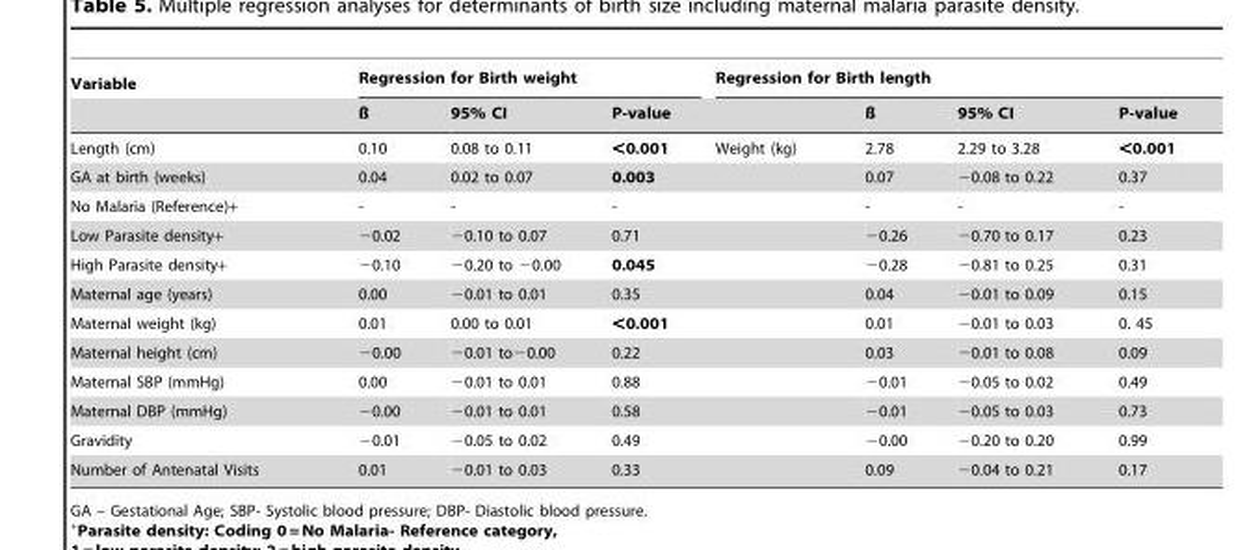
<table><thead><tr><td rowspan="2">Variable</td><td colspan="3">Regression for Birth weight</td><td colspan="4">Regression for Birth length</td></tr><tr><td>ß</td><td>95% CI</td><td>P-value</td><td></td><td>ß</td><td>95% CI</td><td>P-value</td></tr></thead><tbody><tr><td>Length (cm)</td><td>0.10</td><td>0.08 to 0.11</td><td>&lt;0.001</td><td>Weight (kg)</td><td>2.78</td><td>2.29 to 3.28</td><td>&lt;0.001</td></tr><tr><td>GA at birth (weeks)</td><td>0.04</td><td>0.02 to 0.07</td><td>0.003</td><td></td><td>0.07</td><td>−0.08 to 0.22</td><td>0.37</td></tr><tr><td>No Malaria (Reference)+</td><td>-</td><td>-</td><td>-</td><td></td><td>-</td><td>-</td><td>-</td></tr><tr><td>Low Parasite density+</td><td>−0.02</td><td>−0.10 to 0.07</td><td>0.71</td><td></td><td>−0.26</td><td>−0.70 to 0.17</td><td>0.23</td></tr><tr><td>High Parasite density+</td><td>−0.10</td><td>−0.20 to −0.00</td><td>0.045</td><td></td><td>−0.28</td><td>−0.81 to 0.25</td><td>0.31</td></tr><tr><td>Maternal age (years)</td><td>0.00</td><td>−0.01 to 0.01</td><td>0.35</td><td></td><td>0.04</td><td>−0.01 to 0.09</td><td>0.15</td></tr><tr><td>Maternal weight (kg)</td><td>0.01</td><td>0.00 to 0.01</td><td>&lt;0.001</td><td></td><td>0.01</td><td>−0.01 to 0.03</td><td>0. 45</td></tr><tr><td>Maternal height (cm)</td><td>−0.00</td><td>−0.01 to−0.00</td><td>0.22</td><td></td><td>0.03</td><td>−0.01 to 0.08</td><td>0.09</td></tr><tr><td>Maternal SBP (mmHg)</td><td>0.00</td><td>−0.01 to 0.01</td><td>0.88</td><td></td><td>−0.01</td><td>−0.05 to 0.02</td><td>0.49</td></tr><tr><td>Maternal DBP (mmHg)</td><td>−0.00</td><td>−0.01 to 0.01</td><td>0.58</td><td></td><td>−0.01</td><td>−0.05 to 0.03</td><td>0.73</td></tr><tr><td>Gravidity</td><td>−0.01</td><td>−0.05 to 0.02</td><td>0.49</td><td></td><td>−0.00</td><td>−0.20 to 0.20</td><td>0.99</td></tr><tr><td>Number of Antenatal Visits</td><td>0.01</td><td>−0.01 to 0.03</td><td>0.33</td><td></td><td>0.09</td><td>−0.04 to 0.21</td><td>0.17</td></tr></tbody></table>